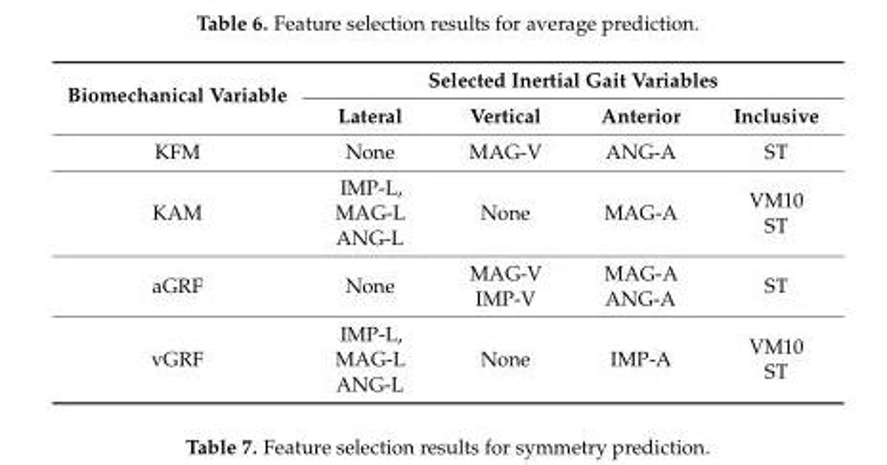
<table><thead><tr><td rowspan="2">Biomechanical Variable</td><td colspan="4">Selected Inertial Gait Variables</td></tr><tr><td>Lateral</td><td>Vertical</td><td>Anterior</td><td>Inclusive</td></tr></thead><tbody><tr><td>KFM</td><td>None</td><td>MAG-V</td><td>ANG-A</td><td>ST</td></tr><tr><td>KAM</td><td>IMP-L, MAG-L ANG-L</td><td>None</td><td>MAG-A</td><td>VM10 ST</td></tr><tr><td>aGRF</td><td>None</td><td>MAG-V IMP-V</td><td>MAG-A ANG-A</td><td>ST</td></tr><tr><td>vGRF</td><td>IMP-L, MAG-L ANG-L</td><td>None</td><td>IMP-A</td><td>VM10 ST</td></tr></tbody></table>